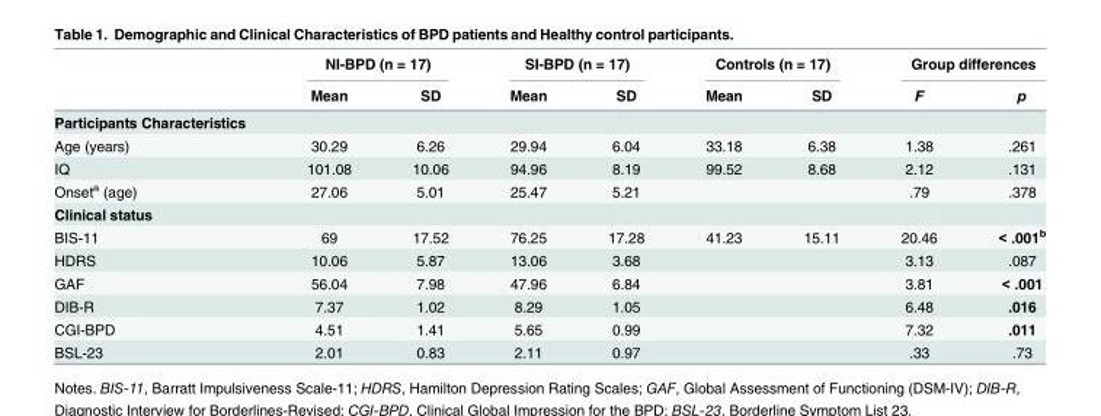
<table><thead><tr><td rowspan="2"></td><td colspan="2">NI-BPD (n = 17)</td><td colspan="2">SI-BPD (n = 17)</td><td colspan="2">Controls (n = 17)</td><td colspan="2">Group differences</td></tr><tr><td>Mean</td><td>SD</td><td>Mean</td><td>SD</td><td>Mean</td><td>SD</td><td>F</td><td>p</td></tr></thead><tbody><tr><td colspan="9">Participants Characteristics</td></tr><tr><td>Age (years)</td><td>30.29</td><td>6.26</td><td>29.94</td><td>6.04</td><td>33.18</td><td>6.38</td><td>1.38</td><td>.261</td></tr><tr><td>IQ</td><td>101.08</td><td>10.06</td><td>94.96</td><td>8.19</td><td>99.52</td><td>8.68</td><td>2.12</td><td>.131</td></tr><tr><td>Onset<sup>a</sup> (age)</td><td>27.06</td><td>5.01</td><td>25.47</td><td>5.21</td><td></td><td></td><td>.79</td><td>.378</td></tr><tr><td colspan="9">Clinical status</td></tr><tr><td>BIS-11</td><td>69</td><td>17.52</td><td>76.25</td><td>17.28</td><td>41.23</td><td>15.11</td><td>20.46</td><td>&lt; .001<sup>b</sup></td></tr><tr><td>HDRS</td><td>10.06</td><td>5.87</td><td>13.06</td><td>3.68</td><td></td><td></td><td>3.13</td><td>.087</td></tr><tr><td>GAF</td><td>56.04</td><td>7.98</td><td>47.96</td><td>6.84</td><td></td><td></td><td>3.81</td><td>&lt; .001</td></tr><tr><td>DIB-R</td><td>7.37</td><td>1.02</td><td>8.29</td><td>1.05</td><td></td><td></td><td>6.48</td><td>.016</td></tr><tr><td>CGI-BPD</td><td>4.51</td><td>1.41</td><td>5.65</td><td>0.99</td><td></td><td></td><td>7.32</td><td>.011</td></tr><tr><td>BSL-23</td><td>2.01</td><td>0.83</td><td>2.11</td><td>0.97</td><td></td><td></td><td>.33</td><td>.73</td></tr></tbody></table>